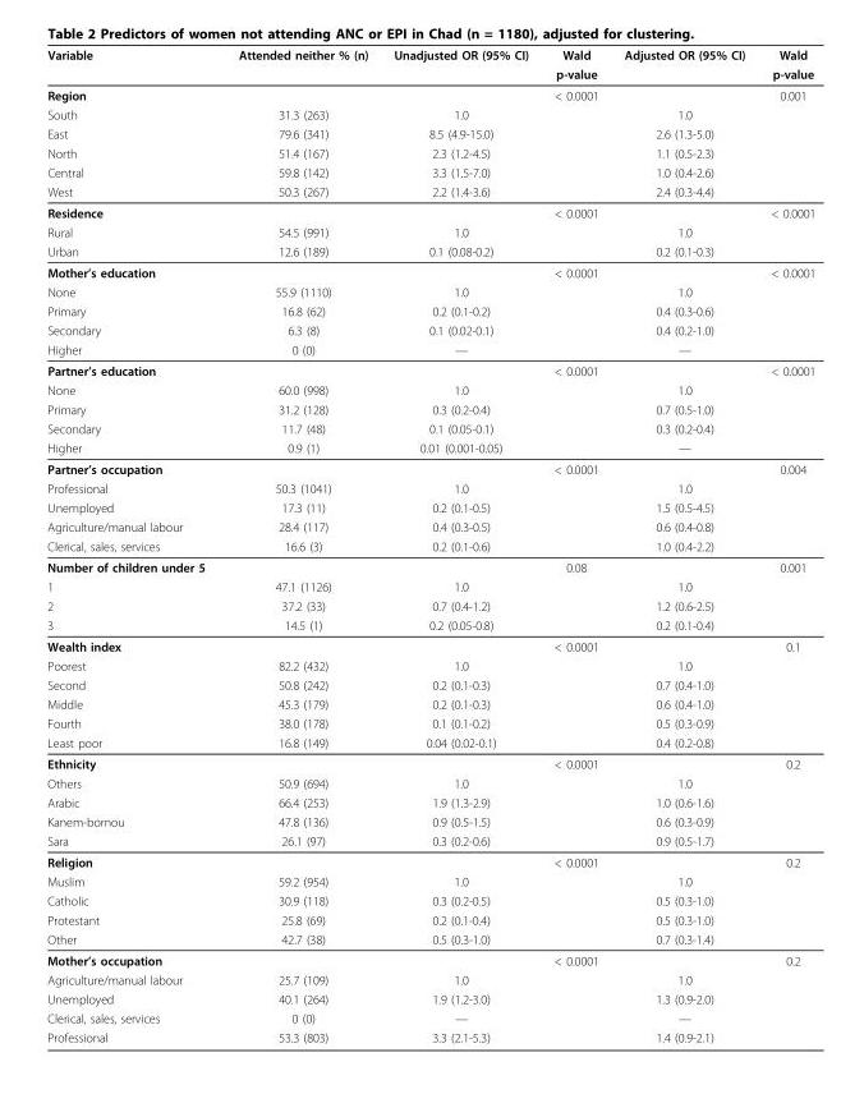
<table><thead><tr><td rowspan="2">Variable</td><td rowspan="2">Attended neither % (n)</td><td rowspan="2">Unadjusted OR (95% CI)</td><td rowspan="2">Wald p-value</td><td rowspan="2">Adjusted OR (95% CI)</td><td rowspan="2">Wald p-value</td></tr><tr></tr></thead><tbody><tr><td>Region</td><td></td><td></td><td>&lt; 0.0001</td><td></td><td>0.001</td></tr><tr><td>South</td><td>31.3 (263)</td><td>1.0</td><td></td><td>1.0</td><td></td></tr><tr><td>East</td><td>79.6 (341)</td><td>8.5 (4.9-15.0)</td><td></td><td>2.6 (1.3-5.0)</td><td></td></tr><tr><td>North</td><td>51.4 (167)</td><td>2.3 (1.2-4.5)</td><td></td><td>1.1 (0.5-2.3)</td><td></td></tr><tr><td>Central</td><td>59.8 (142)</td><td>3.3 (1.5-7.0)</td><td></td><td>1.0 (0.4-2.6)</td><td></td></tr><tr><td>West</td><td>50.3 (267)</td><td>2.2 (1.4-3.6)</td><td></td><td>2.4 (0.3-4.4)</td><td></td></tr><tr><td>Residence</td><td></td><td></td><td>&lt; 0.0001</td><td></td><td>&lt; 0.0001</td></tr><tr><td>Rural</td><td>54.5 (991)</td><td>1.0</td><td></td><td>1.0</td><td></td></tr><tr><td>Urban</td><td>12.6 (189)</td><td>0.1 (0.08-0.2)</td><td></td><td>0.2 (0.1-0.3)</td><td></td></tr><tr><td>Mother’s education</td><td></td><td></td><td>&lt; 0.0001</td><td></td><td>&lt; 0.0001</td></tr><tr><td>None</td><td>55.9 (1110)</td><td>1.0</td><td></td><td>1.0</td><td></td></tr><tr><td>Primary</td><td>16.8 (62)</td><td>0.2 (0.1-0.2)</td><td></td><td>0.4 (0.3-0.6)</td><td></td></tr><tr><td>Secondary</td><td>6.3 (8)</td><td>0.1 (0.02-0.1)</td><td></td><td>0.4 (0.2-1.0)</td><td></td></tr><tr><td>Higher</td><td>0 (0)</td><td>—</td><td></td><td>—</td><td></td></tr><tr><td>Partner’s education</td><td></td><td></td><td>&lt; 0.0001</td><td></td><td>&lt; 0.0001</td></tr><tr><td>None</td><td>60.0 (998)</td><td>1.0</td><td></td><td>1.0</td><td></td></tr><tr><td>Primary</td><td>31.2 (128)</td><td>0.3 (0.2-0.4)</td><td></td><td>0.7 (0.5-1.0)</td><td></td></tr><tr><td>Secondary</td><td>11.7 (48)</td><td>0.1 (0.05-0.1)</td><td></td><td>0.3 (0.2-0.4)</td><td></td></tr><tr><td>Higher</td><td>0.9 (1)</td><td>0.01 (0.001-0.05)</td><td></td><td>—</td><td></td></tr><tr><td>Partner’s occupation</td><td></td><td></td><td>&lt; 0.0001</td><td></td><td>0.004</td></tr><tr><td>Professional</td><td>50.3 (1041)</td><td>1.0</td><td></td><td>1.0</td><td></td></tr><tr><td>Unemployed</td><td>17.3 (11)</td><td>0.2 (0.1-0.5)</td><td></td><td>1.5 (0.5-4.5)</td><td></td></tr><tr><td>Agriculture/manual labour</td><td>28.4 (117)</td><td>0.4 (0.3-0.5)</td><td></td><td>0.6 (0.4-0.8)</td><td></td></tr><tr><td>Clerical, sales, services</td><td>16.6 (3)</td><td>0.2 (0.1-0.6)</td><td></td><td>1.0 (0.4-2.2)</td><td></td></tr><tr><td>Number of children under 5</td><td></td><td></td><td>0.08</td><td></td><td>0.001</td></tr><tr><td>1</td><td>47.1 (1126)</td><td>1.0</td><td></td><td>1.0</td><td></td></tr><tr><td>2</td><td>37.2 (33)</td><td>0.7 (0.4-1.2)</td><td></td><td>1.2 (0.6-2.5)</td><td></td></tr><tr><td>3</td><td>14.5 (1)</td><td>0.2 (0.05-0.8)</td><td></td><td>0.2 (0.1-0.4)</td><td></td></tr><tr><td>Wealth index</td><td></td><td></td><td>&lt; 0.0001</td><td></td><td>0.1</td></tr><tr><td>Poorest</td><td>82.2 (432)</td><td>1.0</td><td></td><td>1.0</td><td></td></tr><tr><td>Second</td><td>50.8 (242)</td><td>0.2 (0.1-0.3)</td><td></td><td>0.7 (0.4-1.0)</td><td></td></tr><tr><td>Middle</td><td>45.3 (179)</td><td>0.2 (0.1-0.3)</td><td></td><td>0.6 (0.4-1.0)</td><td></td></tr><tr><td>Fourth</td><td>38.0 (178)</td><td>0.1 (0.1-0.2)</td><td></td><td>0.5 (0.3-0.9)</td><td></td></tr><tr><td>Least poor</td><td>16.8 (149)</td><td>0.04 (0.02-0.1)</td><td></td><td>0.4 (0.2-0.8)</td><td></td></tr><tr><td>Ethnicity</td><td></td><td></td><td>&lt; 0.0001</td><td></td><td>0.2</td></tr><tr><td>Others</td><td>50.9 (694)</td><td>1.0</td><td></td><td>1.0</td><td></td></tr><tr><td>Arabic</td><td>66.4 (253)</td><td>1.9 (1.3-2.9)</td><td></td><td>1.0 (0.6-1.6)</td><td></td></tr><tr><td>Kanem-bornou</td><td>47.8 (136)</td><td>0.9 (0.5-1.5)</td><td></td><td>0.6 (0.3-0.9)</td><td></td></tr><tr><td>Sara</td><td>26.1 (97)</td><td>0.3 (0.2-0.6)</td><td></td><td>0.9 (0.5-1.7)</td><td></td></tr><tr><td>Religion</td><td></td><td></td><td>&lt; 0.0001</td><td></td><td>0.2</td></tr><tr><td>Muslim</td><td>59.2 (954)</td><td>1.0</td><td></td><td>1.0</td><td></td></tr><tr><td>Catholic</td><td>30.9 (118)</td><td>0.3 (0.2-0.5)</td><td></td><td>0.5 (0.3-1.0)</td><td></td></tr><tr><td>Protestant</td><td>25.8 (69)</td><td>0.2 (0.1-0.4)</td><td></td><td>0.5 (0.3-1.0)</td><td></td></tr><tr><td>Other</td><td>42.7 (38)</td><td>0.5 (0.3-1.0)</td><td></td><td>0.7 (0.3-1.4)</td><td></td></tr><tr><td>Mother’s occupation</td><td></td><td></td><td>&lt; 0.0001</td><td></td><td>0.2</td></tr><tr><td>Agriculture/manual labour</td><td>25.7 (109)</td><td>1.0</td><td></td><td>1.0</td><td></td></tr><tr><td>Unemployed</td><td>40.1 (264)</td><td>1.9 (1.2-3.0)</td><td></td><td>1.3 (0.9-2.0)</td><td></td></tr><tr><td>Clerical, sales, services</td><td>0 (0)</td><td>—</td><td></td><td>—</td><td></td></tr><tr><td>Professional</td><td>53.3 (803)</td><td>3.3 (2.1-5.3)</td><td></td><td>1.4 (0.9-2.1)</td><td></td></tr></tbody></table>